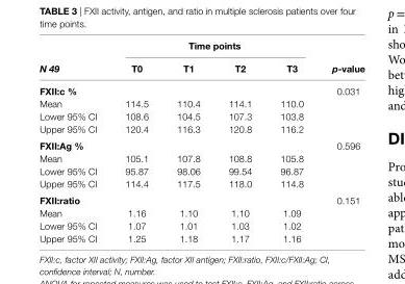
<table><thead><tr><td rowspan="2">N 49</td><td colspan="4">Time points</td><td rowspan="2">p-value</td></tr><tr><td>T0</td><td>T1</td><td>T2</td><td>T3</td></tr></thead><tbody><tr><td>FXii:c %</td><td></td><td></td><td></td><td></td><td>0.031</td></tr><tr><td>Mean</td><td>114.5</td><td>110.4</td><td>114.1</td><td>110.0</td><td></td></tr><tr><td>Lower 95% CI</td><td>108.6</td><td>104.5</td><td>107.3</td><td>103.8</td><td></td></tr><tr><td>Upper 95% CI</td><td>120.4</td><td>116.3</td><td>120.8</td><td>116.2</td><td></td></tr><tr><td>FXii:ag %</td><td></td><td></td><td></td><td></td><td>0.596</td></tr><tr><td>Mean</td><td>105.1</td><td>107.8</td><td>108.8</td><td>105.8</td><td></td></tr><tr><td>Lower 95% CI</td><td>95.87</td><td>98.06</td><td>99.54</td><td>96.87</td><td></td></tr><tr><td>Upper 95% CI</td><td>114.4</td><td>117.5</td><td>118.0</td><td>114.8</td><td></td></tr><tr><td>FXii:ratio</td><td></td><td></td><td></td><td></td><td>0.151</td></tr><tr><td>Mean</td><td>1.16</td><td>1.10</td><td>1.10</td><td>1.09</td><td></td></tr><tr><td>Lower 95% CI</td><td>1.07</td><td>1.01</td><td>1.03</td><td>1.02</td><td></td></tr><tr><td>Upper 95% CI</td><td>1.25</td><td>1.18</td><td>1.17</td><td>1.16</td><td></td></tr></tbody></table>